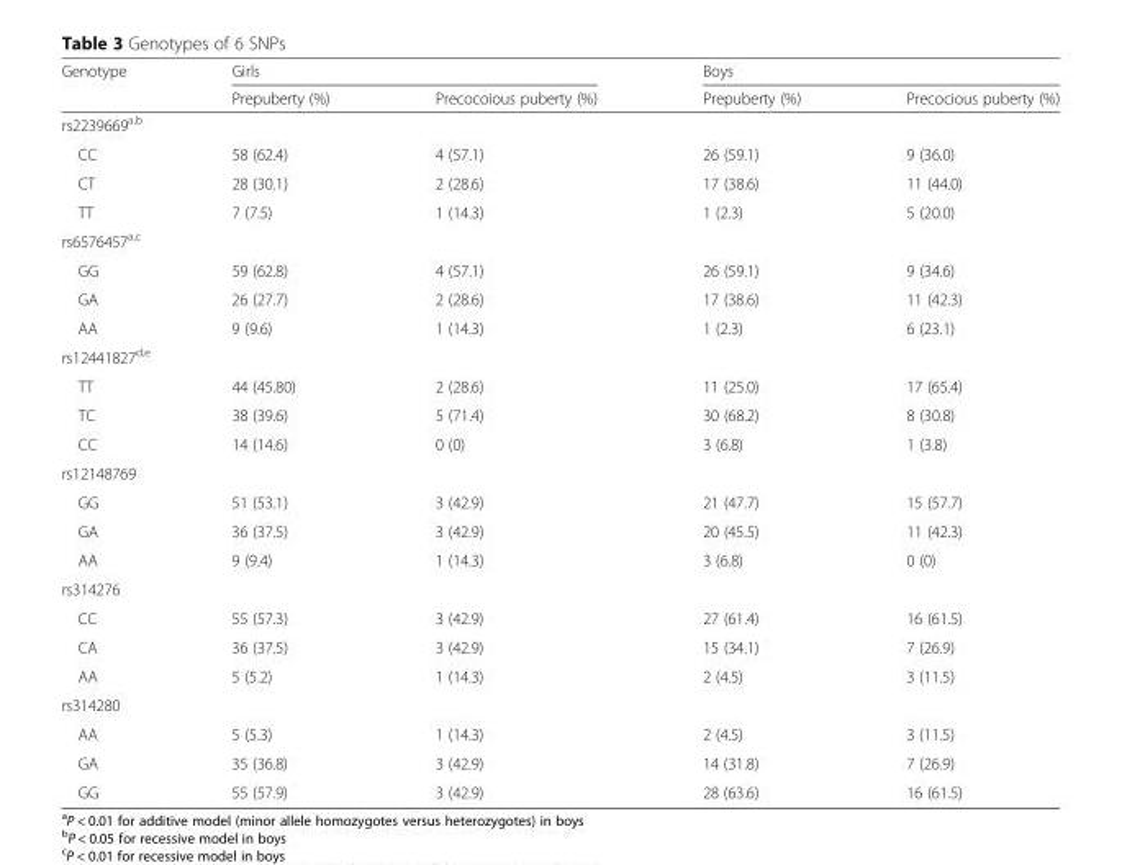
<table><thead><tr><td rowspan="2">Genotype</td><td colspan="2">Girls</td><td colspan="2">Boys</td></tr><tr><td>Prepuberty (%)</td><td>Precocoious puberty (%)</td><td>Prepuberty (%)</td><td>Precocious puberty (%)</td></tr></thead><tbody><tr><td colspan="5">rs2239669<sup>a,b</sup></td></tr><tr><td>CC</td><td>58 (62.4)</td><td>4 (57.1)</td><td>26 (59.1)</td><td>9 (36.0)</td></tr><tr><td>CT</td><td>28 (30.1)</td><td>2 (28.6)</td><td>17 (38.6)</td><td>11 (44.0)</td></tr><tr><td>TT</td><td>7 (7.5)</td><td>1 (14.3)</td><td>1 (2.3)</td><td>5 (20.0)</td></tr><tr><td colspan="5">rs6576457<sup>a,c</sup></td></tr><tr><td>GG</td><td>59 (62.8)</td><td>4 (57.1)</td><td>26 (59.1)</td><td>9 (34.6)</td></tr><tr><td>GA</td><td>26 (27.7)</td><td>2 (28.6)</td><td>17 (38.6)</td><td>11 (42.3)</td></tr><tr><td>AA</td><td>9 (9.6)</td><td>1 (14.3)</td><td>1 (2.3)</td><td>6 (23.1)</td></tr><tr><td colspan="5">rs12441827<sup>d,e</sup></td></tr><tr><td>TT</td><td>44 (45.80)</td><td>2 (28.6)</td><td>11 (25.0)</td><td>17 (65.4)</td></tr><tr><td>TC</td><td>38 (39.6)</td><td>5 (71.4)</td><td>30 (68.2)</td><td>8 (30.8)</td></tr><tr><td>CC</td><td>14 (14.6)</td><td>0 (0)</td><td>3 (6.8)</td><td>1 (3.8)</td></tr><tr><td colspan="5">rs12148769</td></tr><tr><td>GG</td><td>51 (53.1)</td><td>3 (42.9)</td><td>21 (47.7)</td><td>15 (57.7)</td></tr><tr><td>GA</td><td>36 (37.5)</td><td>3 (42.9)</td><td>20 (45.5)</td><td>11 (42.3)</td></tr><tr><td>AA</td><td>9 (9.4)</td><td>1 (14.3)</td><td>3 (6.8)</td><td>0 (0)</td></tr><tr><td colspan="5">rs314276</td></tr><tr><td>CC</td><td>55 (57.3)</td><td>3 (42.9)</td><td>27 (61.4)</td><td>16 (61.5)</td></tr><tr><td>CA</td><td>36 (37.5)</td><td>3 (42.9)</td><td>15 (34.1)</td><td>7 (26.9)</td></tr><tr><td>AA</td><td>5 (5.2)</td><td>1 (14.3)</td><td>2 (4.5)</td><td>3 (11.5)</td></tr><tr><td colspan="5">rs314280</td></tr><tr><td>AA</td><td>5 (5.3)</td><td>1 (14.3)</td><td>2 (4.5)</td><td>3 (11.5)</td></tr><tr><td>GA</td><td>35 (36.8)</td><td>3 (42.9)</td><td>14 (31.8)</td><td>7 (26.9)</td></tr><tr><td>GG</td><td>55 (57.9)</td><td>3 (42.9)</td><td>28 (63.6)</td><td>16 (61.5)</td></tr></tbody></table>